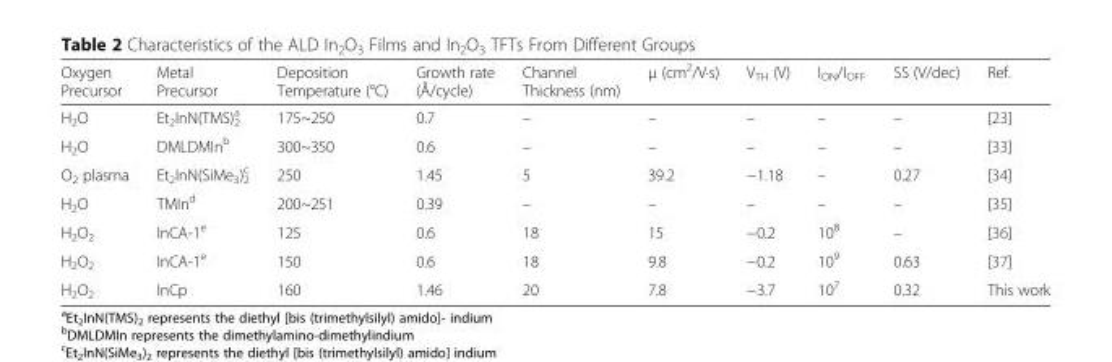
<table><thead><tr><td>Oxygen Precursor</td><td>Metal Precursor</td><td>Deposition Temperature (°C)</td><td>Growth rate (Å/cycle)</td><td>Channel Thickness (nm)</td><td>μ (cm<sup>2</sup>/V·s)</td><td>V<sub>TH</sub> (V)</td><td>I<sub>ON</sub>/I<sub>OFF</sub></td><td>SS (V/dec)</td><td>Ref.</td></tr></thead><tbody><tr><td>H<sub>2</sub>O</td><td>Et<sub>2</sub>InN(TMS)<sub>2</sub> <sup>a</sup></td><td>175~250</td><td>0.7</td><td>–</td><td>–</td><td>–</td><td>–</td><td>–</td><td>[23]</td></tr><tr><td>H<sub>2</sub>O</td><td>DMLDMIn<sup>b</sup></td><td>300~350</td><td>0.6</td><td>–</td><td>–</td><td>–</td><td>–</td><td>–</td><td>[33]</td></tr><tr><td>O<sub>2</sub> plasma</td><td>Et<sub>2</sub>InN(SiMe<sub>3</sub>)<sub>2</sub> <sup>c</sup></td><td>250</td><td>1.45</td><td>5</td><td>39.2</td><td>−1.18</td><td>–</td><td>0.27</td><td>[34]</td></tr><tr><td>H<sub>2</sub>O</td><td>TMIn<sup>d</sup></td><td>200~251</td><td>0.39</td><td>–</td><td>–</td><td>–</td><td>–</td><td>–</td><td>[35]</td></tr><tr><td>H<sub>2</sub>O<sub>2</sub></td><td>InCA-1<sup>e</sup></td><td>125</td><td>0.6</td><td>18</td><td>15</td><td>−0.2</td><td>10<sup>8</sup></td><td>–</td><td>[36]</td></tr><tr><td>H<sub>2</sub>O<sub>2</sub></td><td>InCA-1<sup>e</sup></td><td>150</td><td>0.6</td><td>18</td><td>9.8</td><td>−0.2</td><td>10<sup>9</sup></td><td>0.63</td><td>[37]</td></tr><tr><td>H<sub>2</sub>O<sub>2</sub></td><td>InCp</td><td>160</td><td>1.46</td><td>20</td><td>7.8</td><td>−3.7</td><td>10<sup>7</sup></td><td>0.32</td><td>This work</td></tr></tbody></table>